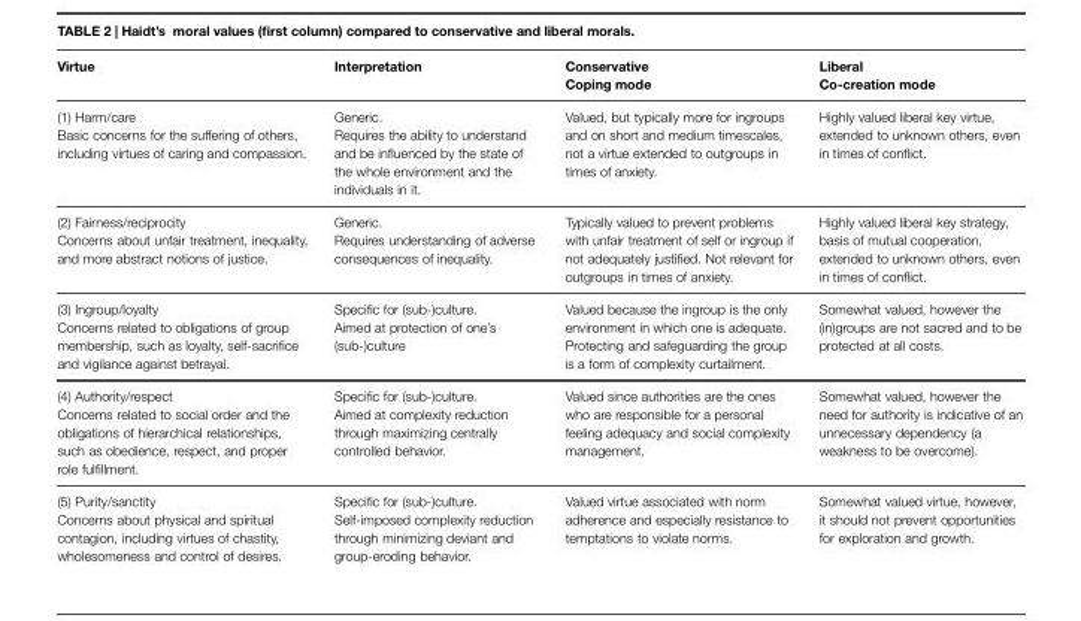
<table><thead><tr><td>Virtue</td><td>Interpretation</td><td>Conservative Coping mode</td><td>Liberal Co-creation mode</td></tr></thead><tbody><tr><td>(1) Harm/care Basic concerns for the suffering of others, including virtues of caring and compassion.</td><td>Generic. Requires the ability to understand and be influenced by the state of the whole environment and the individuals in it.</td><td>Valued, but typically more for ingroups and on short and medium timescales, not a virtue extended to outgroups in times of anxiety.</td><td>Highly valued liberal key virtue, extended to unknown others, even in times of conflict.</td></tr><tr><td>(2) Fairness/reciprocity Concerns about unfair treatment, inequality, and more abstract notions of justice.</td><td>Generic. Requires understanding of adverse consequences of inequality.</td><td>Typically valued to prevent problems with unfair treatment of self or ingroup if not adequately justified. Not relevant for outgroups in times of anxiety.</td><td>Highly valued liberal key strategy, basis of mutual cooperation, extended to unknown others, even in times of conflict.</td></tr><tr><td>(3) Ingroup/loyalty Concerns related to obligations of group membership, such as loyalty, self-sacrifice and vigilance against betrayal.</td><td>Specific for (sub-)culture. Aimed at protection of one’s (sub-)culture</td><td>Valued because the ingroup is the only environment in which one is adequate. Protecting and safeguarding the group is a form of complexity curtailment.</td><td>Somewhat valued, however the (in)groups are not sacred and to be protected at all costs.</td></tr><tr><td>(4) Authority/respect Concerns related to social order and the obligations of hierarchical relationships, such as obedience, respect, and proper role fulfillment.</td><td>Specific for (sub-)culture. Aimed at complexity reduction through maximizing centrally controlled behavior.</td><td>Valued since authorities are the ones who are responsible for a personal feeling adequacy and social complexity management.</td><td>Somewhat valued, however the need for authority is indicative of an unnecessary dependency (a weakness to be overcome).</td></tr><tr><td>(5) Purity/sanctity Concerns about physical and spiritual contagion, including virtues of chastity, wholesomeness and control of desires.</td><td>Specific for (sub-)culture. Self-imposed complexity reduction through minimizing deviant and group-eroding behavior.</td><td>Valued virtue associated with norm adherence and especially resistance to temptations to violate norms.</td><td>Somewhat valued virtue, however, it should not prevent opportunities for exploration and growth.</td></tr></tbody></table>